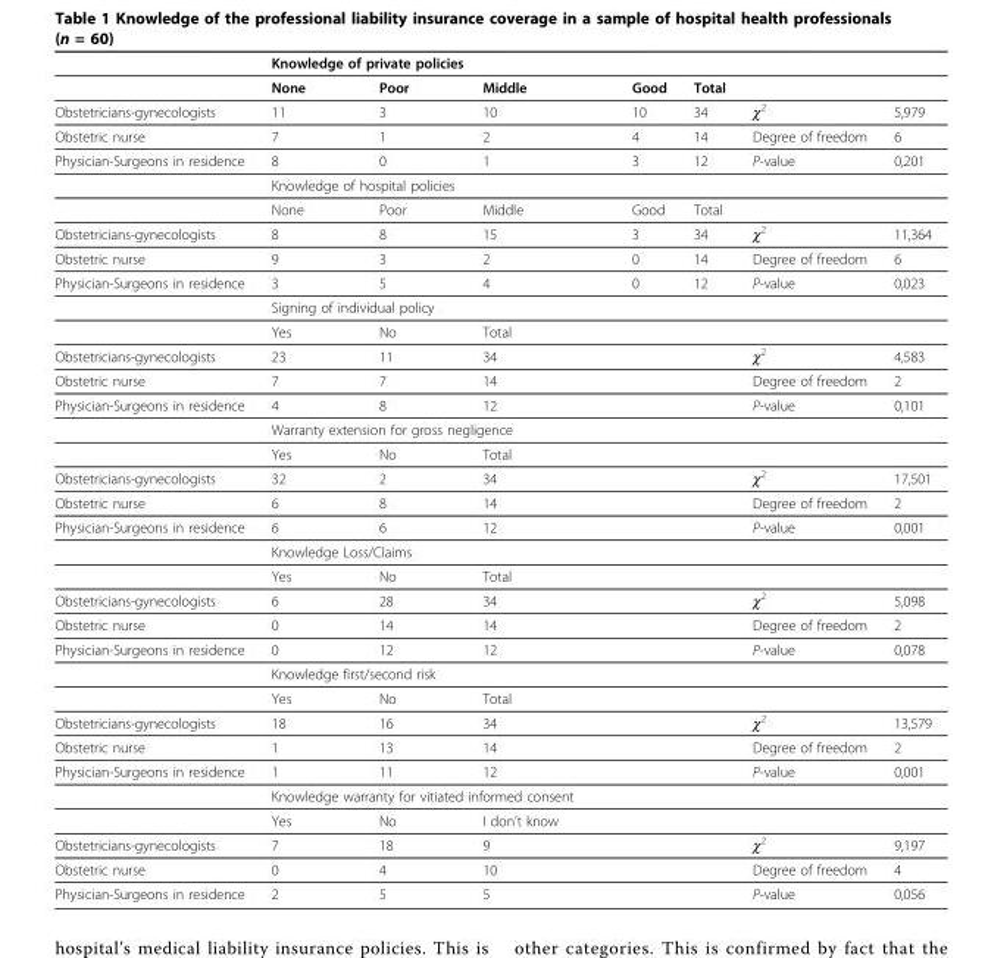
<table><thead><tr><td rowspan="2"></td><td colspan="4">Knowledge of private policies</td><td rowspan="2">Total</td><td rowspan="2"></td><td rowspan="2"></td></tr><tr><td>None</td><td>Poor</td><td>Middle</td><td>Good</td></tr></thead><tbody><tr><td>Obstetricians-gynecologists</td><td>11</td><td>3</td><td>10</td><td>10</td><td>34</td><td>χ<sup>2</sup></td><td>5,979</td></tr><tr><td>Obstetric nurse</td><td>7</td><td>1</td><td>2</td><td>4</td><td>14</td><td>Degree of freedom</td><td>6</td></tr><tr><td rowspan="3">Physician-Surgeons in residence</td><td>8</td><td>0</td><td>1</td><td>3</td><td>12</td><td>P-value</td><td>0,201</td></tr><tr><td colspan="4">Knowledge of hospital policies</td><td></td><td></td><td></td></tr><tr><td>None</td><td>Poor</td><td>Middle</td><td>Good</td><td>Total</td><td></td><td></td></tr><tr><td>Obstetricians-gynecologists</td><td>8</td><td>8</td><td>15</td><td>3</td><td>34</td><td>χ<sup>2</sup></td><td>11,364</td></tr><tr><td>Obstetric nurse</td><td>9</td><td>3</td><td>2</td><td>0</td><td>14</td><td>Degree of freedom</td><td>6</td></tr><tr><td rowspan="3">Physician-Surgeons in residence</td><td>3</td><td>5</td><td>4</td><td>0</td><td>12</td><td>P-value</td><td>0,023</td></tr><tr><td colspan="3">Signing of individual policy</td><td></td><td></td><td></td><td></td></tr><tr><td>Yes</td><td>No</td><td>Total</td><td></td><td></td><td></td><td></td></tr><tr><td>Obstetricians-gynecologists</td><td>23</td><td>11</td><td>34</td><td></td><td></td><td>χ<sup>2</sup></td><td>4,583</td></tr><tr><td>Obstetric nurse</td><td>7</td><td>7</td><td>14</td><td></td><td></td><td>Degree of freedom</td><td>2</td></tr><tr><td rowspan="3">Physician-Surgeons in residence</td><td>4</td><td>8</td><td>12</td><td></td><td></td><td>P-value</td><td>0,101</td></tr><tr><td colspan="3">Warranty extension for gross negligence</td><td></td><td></td><td></td><td></td></tr><tr><td>Yes</td><td>No</td><td>Total</td><td></td><td></td><td></td><td></td></tr><tr><td>Obstetricians-gynecologists</td><td>32</td><td>2</td><td>34</td><td></td><td></td><td>χ<sup>2</sup></td><td>17,501</td></tr><tr><td>Obstetric nurse</td><td>6</td><td>8</td><td>14</td><td></td><td></td><td>Degree of freedom</td><td>2</td></tr><tr><td rowspan="3">Physician-Surgeons in residence</td><td>6</td><td>6</td><td>12</td><td></td><td></td><td>P-value</td><td>0,001</td></tr><tr><td colspan="3">Knowledge Loss/Claims</td><td></td><td></td><td></td><td></td></tr><tr><td>Yes</td><td>No</td><td>Total</td><td></td><td></td><td></td><td></td></tr><tr><td>Obstetricians-gynecologists</td><td>6</td><td>28</td><td>34</td><td></td><td></td><td>χ<sup>2</sup></td><td>5,098</td></tr><tr><td>Obstetric nurse</td><td>0</td><td>14</td><td>14</td><td></td><td></td><td>Degree of freedom</td><td>2</td></tr><tr><td rowspan="3">Physician-Surgeons in residence</td><td>0</td><td>12</td><td>12</td><td></td><td></td><td>P-value</td><td>0,078</td></tr><tr><td colspan="3">Knowledge first/second risk</td><td></td><td></td><td></td><td></td></tr><tr><td>Yes</td><td>No</td><td>Total</td><td></td><td></td><td></td><td></td></tr><tr><td>Obstetricians-gynecologists</td><td>18</td><td>16</td><td>34</td><td></td><td></td><td>χ<sup>2</sup></td><td>13,579</td></tr><tr><td>Obstetric nurse</td><td>1</td><td>13</td><td>14</td><td></td><td></td><td>Degree of freedom</td><td>2</td></tr><tr><td rowspan="3">Physician-Surgeons in residence</td><td>1</td><td>11</td><td>12</td><td></td><td></td><td>P-value</td><td>0,001</td></tr><tr><td colspan="3">Knowledge warranty for vitiated informed consent</td><td></td><td></td><td></td><td></td></tr><tr><td>Yes</td><td>No</td><td>I don’t know</td><td></td><td></td><td></td><td></td></tr><tr><td>Obstetricians-gynecologists</td><td>7</td><td>18</td><td>9</td><td></td><td></td><td>χ<sup>2</sup></td><td>9,197</td></tr><tr><td>Obstetric nurse</td><td>0</td><td>4</td><td>10</td><td></td><td></td><td>Degree of freedom</td><td>4</td></tr><tr><td>Physician-Surgeons in residence</td><td>2</td><td>5</td><td>5</td><td></td><td></td><td>P-value</td><td>0,056</td></tr></tbody></table>